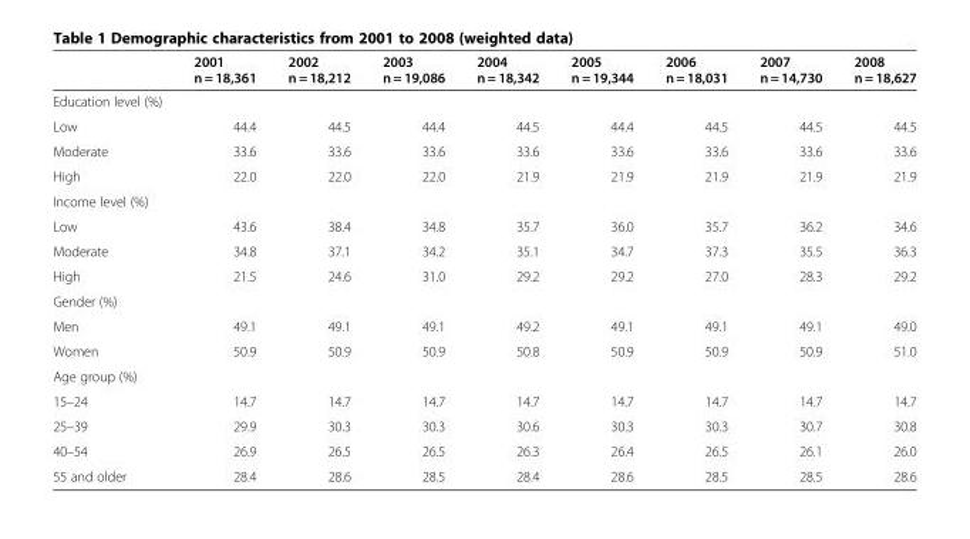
<table><thead><tr><td></td><td>2001 n = 18,361</td><td>2002 n = 18,212</td><td>2003 n = 19,086</td><td>2004 n = 18,342</td><td>2005 n = 19,344</td><td>2006 n = 18,031</td><td>2007 n = 14,730</td><td>2008 n = 18,627</td></tr></thead><tbody><tr><td colspan="9">Education level (%)</td></tr><tr><td>Low</td><td>44.4</td><td>44.5</td><td>44.4</td><td>44.5</td><td>44.4</td><td>44.5</td><td>44.5</td><td>44.5</td></tr><tr><td>Moderate</td><td>33.6</td><td>33.6</td><td>33.6</td><td>33.6</td><td>33.6</td><td>33.6</td><td>33.6</td><td>33.6</td></tr><tr><td>High</td><td>22.0</td><td>22.0</td><td>22.0</td><td>21.9</td><td>21.9</td><td>21.9</td><td>21.9</td><td>21.9</td></tr><tr><td colspan="9">Income level (%)</td></tr><tr><td>Low</td><td>43.6</td><td>38.4</td><td>34.8</td><td>35.7</td><td>36.0</td><td>35.7</td><td>36.2</td><td>34.6</td></tr><tr><td>Moderate</td><td>34.8</td><td>37.1</td><td>34.2</td><td>35.1</td><td>34.7</td><td>37.3</td><td>35.5</td><td>36.3</td></tr><tr><td>High</td><td>21.5</td><td>24.6</td><td>31.0</td><td>29.2</td><td>29.2</td><td>27.0</td><td>28.3</td><td>29.2</td></tr><tr><td colspan="9">Gender (%)</td></tr><tr><td>Men</td><td>49.1</td><td>49.1</td><td>49.1</td><td>49.2</td><td>49.1</td><td>49.1</td><td>49.1</td><td>49.0</td></tr><tr><td>Women</td><td>50.9</td><td>50.9</td><td>50.9</td><td>50.8</td><td>50.9</td><td>50.9</td><td>50.9</td><td>51.0</td></tr><tr><td colspan="9">Age group (%)</td></tr><tr><td>15–24</td><td>14.7</td><td>14.7</td><td>14.7</td><td>14.7</td><td>14.7</td><td>14.7</td><td>14.7</td><td>14.7</td></tr><tr><td>25–39</td><td>29.9</td><td>30.3</td><td>30.3</td><td>30.6</td><td>30.3</td><td>30.3</td><td>30.7</td><td>30.8</td></tr><tr><td>40–54</td><td>26.9</td><td>26.5</td><td>26.5</td><td>26.3</td><td>26.4</td><td>26.5</td><td>26.1</td><td>26.0</td></tr><tr><td>55 and older</td><td>28.4</td><td>28.6</td><td>28.5</td><td>28.4</td><td>28.6</td><td>28.5</td><td>28.5</td><td>28.6</td></tr></tbody></table>